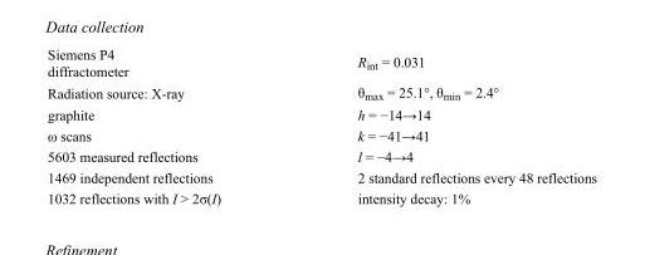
<table><tbody><tr><td>Siemens P4 diffractometer</td><td>R<sub>int</sub> = 0.031</td></tr><tr><td>Radiation source: X-ray</td><td>θ<sub>max</sub> = 25.1°, θ<sub>min</sub> = 2.4°</td></tr><tr><td>graphite</td><td>h = −14→14</td></tr><tr><td>ω scans</td><td>k = −41→41</td></tr><tr><td>5603 measured reflections</td><td>l = −4→4</td></tr><tr><td>1469 independent reflections</td><td>2 standard reflections every 48 reflections</td></tr><tr><td>1032 reflections with I &gt; 2σ(I)</td><td>intensity decay: 1%</td></tr></tbody></table>